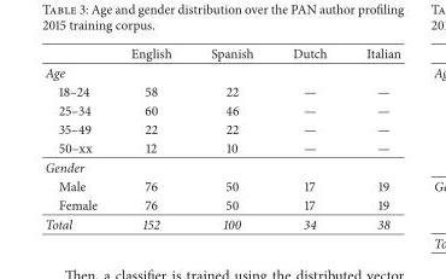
<table><thead><tr><td></td><td>English</td><td>Spanish</td><td>Dutch</td><td>Italian</td></tr></thead><tbody><tr><td colspan="5">Age</td></tr><tr><td>18–24</td><td>58</td><td>22</td><td>—</td><td>—</td></tr><tr><td>25–34</td><td>60</td><td>46</td><td>—</td><td>—</td></tr><tr><td>35–49</td><td>22</td><td>22</td><td>—</td><td>—</td></tr><tr><td>50–xx</td><td>12</td><td>10</td><td>—</td><td>—</td></tr><tr><td colspan="5">Gender</td></tr><tr><td>Male</td><td>76</td><td>50</td><td>17</td><td>19</td></tr><tr><td>Female</td><td>76</td><td>50</td><td>17</td><td>19</td></tr><tr><td>Total</td><td>152</td><td>100</td><td>34</td><td>38</td></tr></tbody></table>